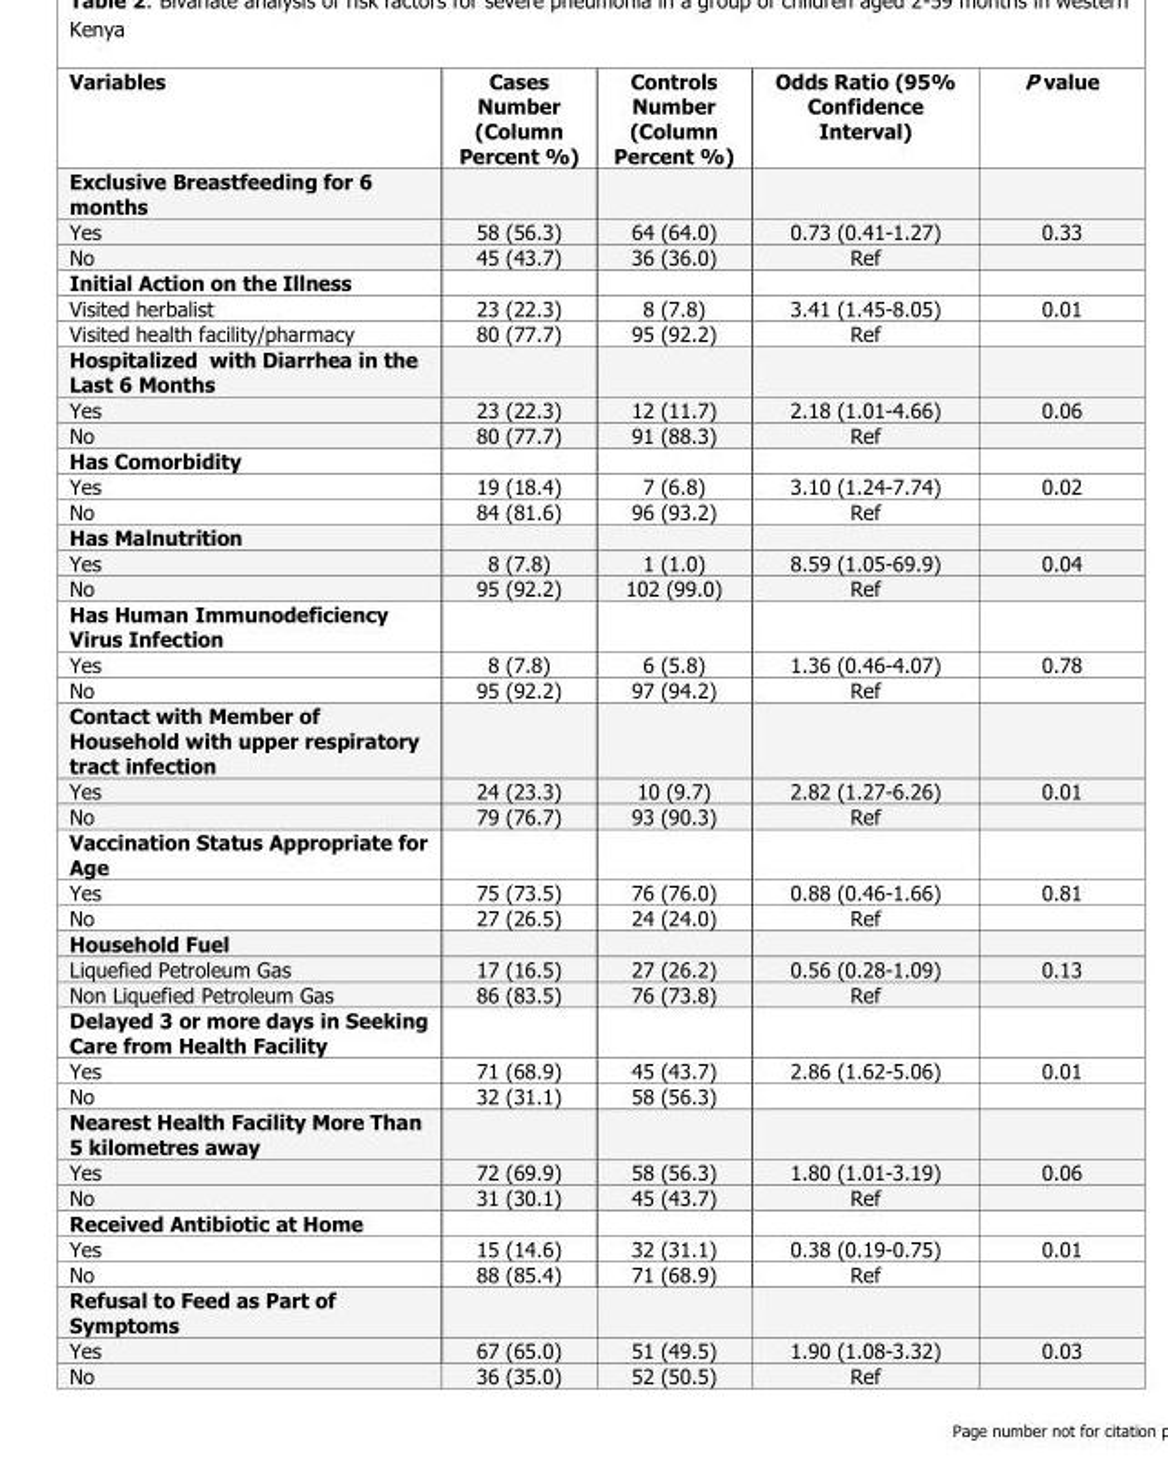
<table><thead><tr><td>Variables</td><td>Cases Number (Column Percent %)</td><td>Controls Number (Column Percent %)</td><td>Odds Ratio (95% Confidence Interval)</td><td>P value</td></tr></thead><tbody><tr><td colspan="5">Exclusive Breastfeeding for 6 months</td></tr><tr><td>Yes</td><td>58 (56.3)</td><td>64 (64.0)</td><td>0.73 (0.41-1.27)</td><td>0.33</td></tr><tr><td>No</td><td>45 (43.7)</td><td>36 (36.0)</td><td>Ref</td><td></td></tr><tr><td colspan="5">Initial Action on the Illness</td></tr><tr><td>Visited herbalist</td><td>23 (22.3)</td><td>8 (7.8)</td><td>3.41 (1.45-8.05)</td><td>0.01</td></tr><tr><td>Visited health facility/pharmacy</td><td>80 (77.7)</td><td>95 (92.2)</td><td>Ref</td><td></td></tr><tr><td colspan="5">Hospitalized with Diarrhea in the Last 6 Months</td></tr><tr><td>Yes</td><td>23 (22.3)</td><td>12 (11.7)</td><td>2.18 (1.01-4.66)</td><td>0.06</td></tr><tr><td>No</td><td>80 (77.7)</td><td>91 (88.3)</td><td>Ref</td><td></td></tr><tr><td colspan="5">Has Comorbidity</td></tr><tr><td>Yes</td><td>19 (18.4)</td><td>7 (6.8)</td><td>3.10 (1.24-7.74)</td><td>0.02</td></tr><tr><td>No</td><td>84 (81.6)</td><td>96 (93.2)</td><td>Ref</td><td></td></tr><tr><td colspan="5">Has Malnutrition</td></tr><tr><td>Yes</td><td>8 (7.8)</td><td>1 (1.0)</td><td>8.59 (1.05-69.9)</td><td>0.04</td></tr><tr><td>No</td><td>95 (92.2)</td><td>102 (99.0)</td><td>Ref</td><td></td></tr><tr><td colspan="5">Has Human Immunodeficiency Virus Infection</td></tr><tr><td>Yes</td><td>8 (7.8)</td><td>6 (5.8)</td><td>1.36 (0.46-4.07)</td><td>0.78</td></tr><tr><td>No</td><td>95 (92.2)</td><td>97 (94.2)</td><td>Ref</td><td></td></tr><tr><td colspan="5">Contact with Member of Household with upper respiratory tract infection</td></tr><tr><td>Yes</td><td>24 (23.3)</td><td>10 (9.7)</td><td>2.82 (1.27-6.26)</td><td>0.01</td></tr><tr><td>No</td><td>79 (76.7)</td><td>93 (90.3)</td><td>Ref</td><td></td></tr><tr><td colspan="5">Vaccination Status Appropriate for Age</td></tr><tr><td>Yes</td><td>75 (73.5)</td><td>76 (76.0)</td><td>0.88 (0.46-1.66)</td><td>0.81</td></tr><tr><td>No</td><td>27 (26.5)</td><td>24 (24.0)</td><td>Ref</td><td></td></tr><tr><td colspan="5">Household Fuel</td></tr><tr><td>Liquefied Petroleum Gas</td><td>17 (16.5)</td><td>27 (26.2)</td><td>0.56 (0.28-1.09)</td><td>0.13</td></tr><tr><td>Non Liquefied Petroleum Gas</td><td>86 (83.5)</td><td>76 (73.8)</td><td>Ref</td><td></td></tr><tr><td colspan="5">Delayed 3 or more days in Seeking Care from Health Facility</td></tr><tr><td>Yes</td><td>71 (68.9)</td><td>45 (43.7)</td><td>2.86 (1.62-5.06)</td><td>0.01</td></tr><tr><td>No</td><td>32 (31.1)</td><td>58 (56.3)</td><td></td><td></td></tr><tr><td colspan="5">Nearest Health Facility More Than 5 kilometres away</td></tr><tr><td>Yes</td><td>72 (69.9)</td><td>58 (56.3)</td><td>1.80 (1.01-3.19)</td><td>0.06</td></tr><tr><td>No</td><td>31 (30.1)</td><td>45 (43.7)</td><td>Ref</td><td></td></tr><tr><td colspan="5">Received Antibiotic at Home</td></tr><tr><td>Yes</td><td>15 (14.6)</td><td>32 (31.1)</td><td>0.38 (0.19-0.75)</td><td>0.01</td></tr><tr><td>No</td><td>88 (85.4)</td><td>71 (68.9)</td><td>Ref</td><td></td></tr><tr><td colspan="5">Refusal to Feed as Part of Symptoms</td></tr><tr><td>Yes</td><td>67 (65.0)</td><td>51 (49.5)</td><td>1.90 (1.08-3.32)</td><td>0.03</td></tr><tr><td>No</td><td>36 (35.0)</td><td>52 (50.5)</td><td>Ref</td><td></td></tr></tbody></table>